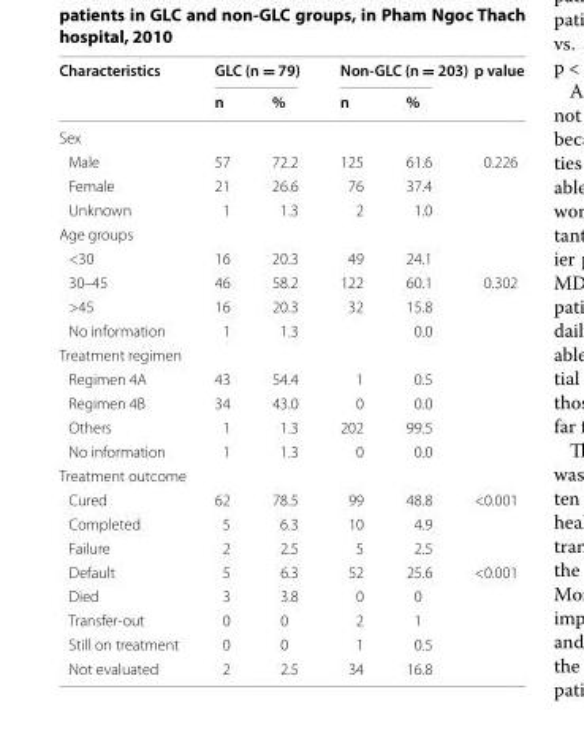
<table><thead><tr><td rowspan="2">Characteristics</td><td colspan="2">GLC (n = 79)</td><td colspan="2">Non‑GLC (n = 203)</td><td rowspan="2">p value</td></tr><tr><td>n</td><td>%</td><td>n</td><td>%</td></tr></thead><tbody><tr><td colspan="6">Sex</td></tr><tr><td>Male</td><td>57</td><td>72.2</td><td>125</td><td>61.6</td><td>0.226</td></tr><tr><td>Female</td><td>21</td><td>26.6</td><td>76</td><td>37.4</td><td></td></tr><tr><td>Unknown</td><td>1</td><td>1.3</td><td>2</td><td>1.0</td><td></td></tr><tr><td colspan="6">Age groups</td></tr><tr><td>&lt;30</td><td>16</td><td>20.3</td><td>49</td><td>24.1</td><td></td></tr><tr><td>30–45</td><td>46</td><td>58.2</td><td>122</td><td>60.1</td><td>0.302</td></tr><tr><td>&gt;45</td><td>16</td><td>20.3</td><td>32</td><td>15.8</td><td></td></tr><tr><td>No information</td><td>1</td><td>1.3</td><td></td><td>0.0</td><td></td></tr><tr><td colspan="6">Treatment regimen</td></tr><tr><td>Regimen 4A</td><td>43</td><td>54.4</td><td>1</td><td>0.5</td><td></td></tr><tr><td>Regimen 4B</td><td>34</td><td>43.0</td><td>0</td><td>0.0</td><td></td></tr><tr><td>Others</td><td>1</td><td>1.3</td><td>202</td><td>99.5</td><td></td></tr><tr><td>No information</td><td>1</td><td>1.3</td><td>0</td><td>0.0</td><td></td></tr><tr><td colspan="6">Treatment outcome</td></tr><tr><td>Cured</td><td>62</td><td>78.5</td><td>99</td><td>48.8</td><td>&lt;0.001</td></tr><tr><td>Completed</td><td>5</td><td>6.3</td><td>10</td><td>4.9</td><td></td></tr><tr><td>Failure</td><td>2</td><td>2.5</td><td>5</td><td>2.5</td><td></td></tr><tr><td>Default</td><td>5</td><td>6.3</td><td>52</td><td>25.6</td><td>&lt;0.001</td></tr><tr><td>Died</td><td>3</td><td>3.8</td><td>0</td><td>0</td><td></td></tr><tr><td>Transfer-out</td><td>0</td><td>0</td><td>2</td><td>1</td><td></td></tr><tr><td>Still on treatment</td><td>0</td><td>0</td><td>1</td><td>0.5</td><td></td></tr><tr><td>Not evaluated</td><td>2</td><td>2.5</td><td>34</td><td>16.8</td><td></td></tr></tbody></table>